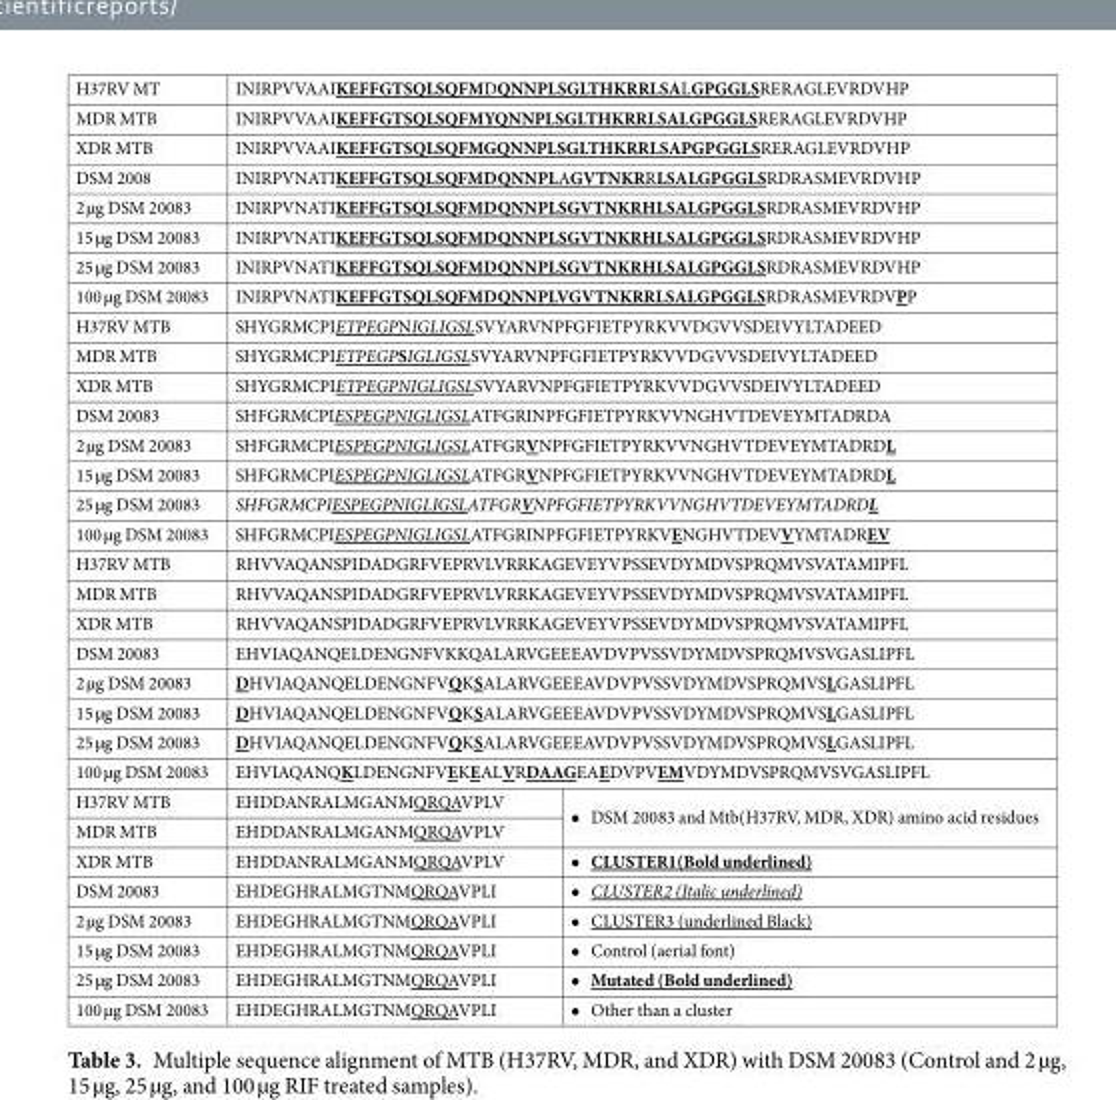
<table><tbody><tr><td>H37RV MT</td><td colspan="2">INIRPVVAAIKEFFGTSQLSQFMDQNNPLSGLTHKRRLSALGPGGLSRERAGLEVRDVHP</td></tr><tr><td>MDR MTB</td><td colspan="2">INIRPVVAAIKEFFGTSQLSQFMYQNNPLSGLTHKRRLSALGPGGLSRERAGLEVRDVHP</td></tr><tr><td>XDR MTB</td><td colspan="2">INIRPVVAAIKEFFGTSQLSQFMGQNNPLSGLTHKRRLSAPGPGGLSRERAGLEVRDVHP</td></tr><tr><td>DSM 2008</td><td colspan="2">INIRPVNATIKEFFGTSQLSQFMDQNNPLAGVTNKRRLSALGPGGLSRDRASMEVRDVHP</td></tr><tr><td>2 µg DSM 20083</td><td colspan="2">INIRPVNATIKEFFGTSQLSQFMDQNNPLSGVTNKRHLSALGPGGLSRDRASMEVRDVHP</td></tr><tr><td>15 µg DSM 20083</td><td colspan="2">INIRPVNATIKEFFGTSQLSQFMDQNNPLSGVTNKRHLSALGPGGLSRDRASMEVRDVHP</td></tr><tr><td>25 µg DSM 20083</td><td colspan="2">INIRPVNATIKEFFGTSQLSQFMDQNNPLSGVTNKRHLSALGPGGLSRDRASMEVRDVHP</td></tr><tr><td>100 µg DSM 20083</td><td colspan="2">INIRPVNATIKEFFGTSQLSQFMDQNNPLVGVTNKRRLSALGPGGLSRDRASMEVRDVPP</td></tr><tr><td>H37RV MTB</td><td colspan="2">SHYGRMCPIETPEGPNIGLIGSLSVYARVNPFGFIETPYRKVVDGVVSDEIVYLTADEED</td></tr><tr><td>MDR MTB</td><td colspan="2">SHYGRMCPIETPEGPSIGLIGSLSVYARVNPFGFIETPYRKVVDGVVSDEIVYLTADEED</td></tr><tr><td>XDR MTB</td><td colspan="2">SHYGRMCPIETPEGPNIGLIGSLSVYARVNPFGFIETPYRKVVDGVVSDEIVYLTADEED</td></tr><tr><td>DSM 20083</td><td colspan="2">SHFGRMCPIESPEGPNIGLIGSLATFGRINPFGFIETPYRKVVNGHVTDEVEYMTADRDA</td></tr><tr><td>2 µg DSM 20083</td><td colspan="2">SHFGRMCPIESPEGPNIGLIGSLATFGRVNPFGFIETPYRKVVNGHVTDEVEYMTADRDL</td></tr><tr><td>15 µg DSM 20083</td><td colspan="2">SHFGRMCPIESPEGPNIGLIGSLATFGRVNPFGFIETPYRKVVNGHVTDEVEYMTADRDL</td></tr><tr><td>25 µg DSM 20083</td><td colspan="2">SHFGRMCPIESPEGPNIGLIGSLATFGRVNPFGFIETPYRKVVNGHVTDEVEYMTADRDL</td></tr><tr><td>100 µg DSM 20083</td><td colspan="2">SHFGRMCPIESPEGPNIGLIGSLATFGRINPFGFIETPYRKVENGHVTDEVVYMTADREV</td></tr><tr><td>H37RV MTB</td><td colspan="2">RHVVAQANSPIDADGRFVEPRVLVRRKAGEVEYVPSSEVDYMDVSPRQMVSVATAMIPFL</td></tr><tr><td>MDR MTB</td><td colspan="2">RHVVAQANSPIDADGRFVEPRVLVRRKAGEVEYVPSSEVDYMDVSPRQMVSVATAMIPFL</td></tr><tr><td>XDR MTB</td><td colspan="2">RHVVAQANSPIDADGRFVEPRVLVRRKAGEVEYVPSSEVDYMDVSPRQMVSVATAMIPFL</td></tr><tr><td>DSM 20083</td><td colspan="2">EHVIAQANQELDENGNFVKKQALARVGEEEAVDVPVSSVDYMDVSPRQMVSVGASLIPFL</td></tr><tr><td>2 µg DSM 20083</td><td colspan="2">DHVIAQANQELDENGNFVQKSALARVGEEEAVDVPVSSVDYMDVSPRQMVSLGASLIPFL</td></tr><tr><td>15 µg DSM 20083</td><td colspan="2">DHVIAQANQELDENGNFVQKSALARVGEEEAVDVPVSSVDYMDVSPRQMVSLGASLIPFL</td></tr><tr><td>25 µg DSM 20083</td><td colspan="2">DHVIAQANQELDENGNFVQKSALARVGEEEAVDVPVSSVDYMDVSPRQMVSLGASLIPFL</td></tr><tr><td>100 µg DSM 20083</td><td colspan="2">EHVIAQANQKLDENGNFVEKEALVRDAAGEAEDVPVEMVDYMDVSPRQMVSVGASLIPFL</td></tr><tr><td>H37RV MTB</td><td>EHDDANRALMGANMQRQAVPLV</td><td rowspan="2">• DSM 20083 and Mtb(H37RV, MDR, XDR) amino acid residues</td></tr><tr><td>MDR MTB</td><td>EHDDANRALMGANMQRQAVPLV</td></tr><tr><td>XDR MTB</td><td>EHDDANRALMGANMQRQAVPLV</td><td>• CLUSTER1(Bold underlined)</td></tr><tr><td>DSM 20083</td><td>EHDEGHRALMGTNMQRQAVPLI</td><td>• CLUSTER2 (Italic underlined)</td></tr><tr><td>2 µg DSM 20083</td><td>EHDEGHRALMGTNMQRQAVPLI</td><td>• CLUSTER3 (underlined Black)</td></tr><tr><td>15 µg DSM 20083</td><td>EHDEGHRALMGTNMQRQAVPLI</td><td>• Control (aerial font)</td></tr><tr><td>25 µg DSM 20083</td><td>EHDEGHRALMGTNMQRQAVPLI</td><td>• Mutated (Bold underlined)</td></tr><tr><td>100 µg DSM 20083</td><td>EHDEGHRALMGTNMQRQAVPLI</td><td>• Other than a cluster</td></tr></tbody></table>